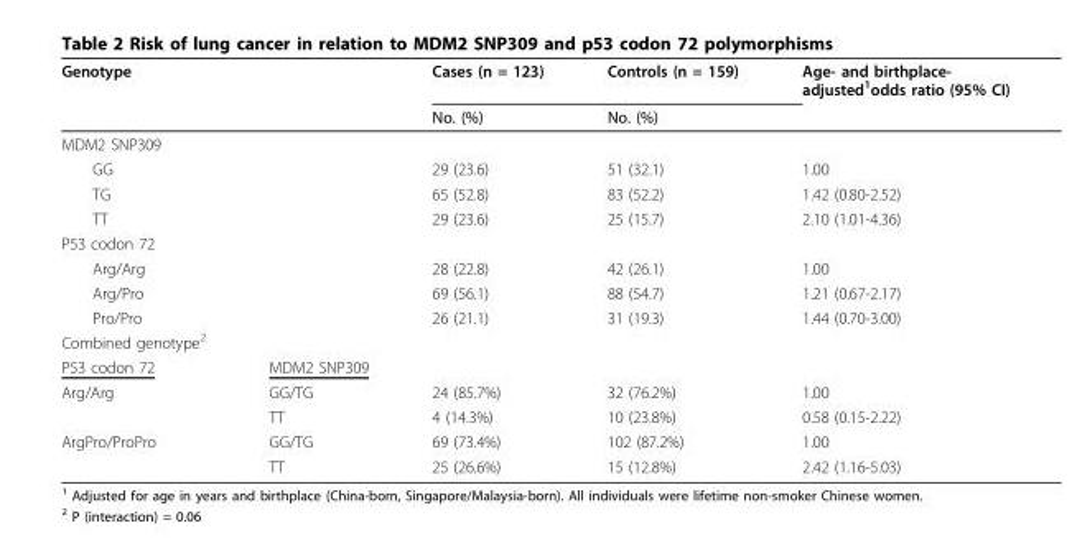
<table><thead><tr><td rowspan="2">Genotype</td><td rowspan="2"></td><td rowspan="2">Cases (n = 123) No. (%)</td><td rowspan="2">Controls (n = 159) No. (%)</td><td rowspan="2">Age- and birthplace- adjusted<sup>1</sup>odds ratio (95% CI)</td></tr><tr></tr></thead><tbody><tr><td colspan="5">MDM2 SNP309</td></tr><tr><td>GG</td><td></td><td>29 (23.6)</td><td>51 (32.1)</td><td>1.00</td></tr><tr><td>TG</td><td></td><td>65 (52.8)</td><td>83 (52.2)</td><td>1.42 (0.80-2.52)</td></tr><tr><td>TT</td><td></td><td>29 (23.6)</td><td>25 (15.7)</td><td>2.10 (1.01-4.36)</td></tr><tr><td colspan="5">P53 codon 72</td></tr><tr><td>Arg/Arg</td><td></td><td>28 (22.8)</td><td>42 (26.1)</td><td>1.00</td></tr><tr><td>Arg/Pro</td><td></td><td>69 (56.1)</td><td>88 (54.7)</td><td>1.21 (0.67-2.17)</td></tr><tr><td>Pro/Pro</td><td></td><td>26 (21.1)</td><td>31 (19.3)</td><td>1.44 (0.70-3.00)</td></tr><tr><td colspan="5">Combined genotype<sup>2</sup></td></tr><tr><td>P53 codon 72</td><td>MDM2 SNP309</td><td></td><td></td><td></td></tr><tr><td rowspan="2">Arg/Arg</td><td>GG/TG</td><td>24 (85.7%)</td><td>32 (76.2%)</td><td>1.00</td></tr><tr><td>TT</td><td>4 (14.3%)</td><td>10 (23.8%)</td><td>0.58 (0.15-2.22)</td></tr><tr><td rowspan="2">ArgPro/ProPro</td><td>GG/TG</td><td>69 (73.4%)</td><td>102 (87.2%)</td><td>1.00</td></tr><tr><td>TT</td><td>25 (26.6%)</td><td>15 (12.8%)</td><td>2.42 (1.16-5.03)</td></tr></tbody></table>